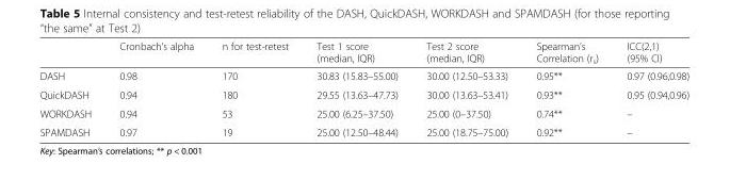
<table><thead><tr><td></td><td>Cronbach’s alpha</td><td>n for test-retest</td><td>Test 1 score (median, IQR)</td><td>Test 2 score (median, IQR)</td><td>Spearman’s Correlation (r<sub>s</sub>)</td><td>ICC(2,1) (95% CI)</td></tr></thead><tbody><tr><td>DASH</td><td>0.98</td><td>170</td><td>30.83 (15.83–55.00)</td><td>30.00 (12.50–53.33)</td><td>0.95**</td><td>0.97 (0.96,0.98)</td></tr><tr><td>QuickDASH</td><td>0.94</td><td>180</td><td>29.55 (13.63–47.73)</td><td>30.00 (13.63–53.41)</td><td>0.93**</td><td>0.95 (0.94,0.96)</td></tr><tr><td>WORKDASH</td><td>0.94</td><td>53</td><td>25.00 (6.25–37.50)</td><td>25.00 (0–37.50)</td><td>0.74**</td><td>–</td></tr><tr><td>SPAMDASH</td><td>0.97</td><td>19</td><td>25.00 (12.50–48.44)</td><td>25.00 (18.75–75.00)</td><td>0.92**</td><td>–</td></tr></tbody></table>